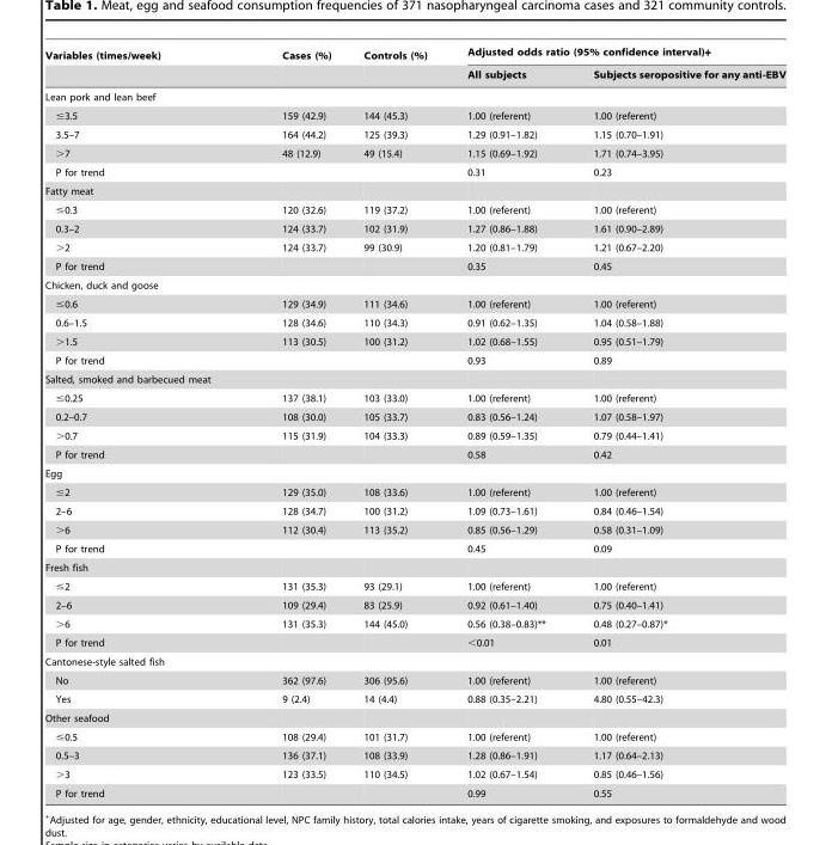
<table><thead><tr><td rowspan="2">Variables (times/week)</td><td rowspan="2">Cases (%)</td><td rowspan="2">Controls (%)</td><td colspan="2">Adjusted odds ratio (95% confidence interval)+</td></tr><tr><td>All subjects</td><td>Subjects seropositive for any anti-EBV</td></tr></thead><tbody><tr><td colspan="5">Lean pork and lean beef</td></tr><tr><td>≤3.5</td><td>159 (42.9)</td><td>144 (45.3)</td><td>1.00 (referent)</td><td>1.00 (referent)</td></tr><tr><td>3.5–7</td><td>164 (44.2)</td><td>125 (39.3)</td><td>1.29 (0.91–1.82)</td><td>1.15 (0.70–1.91)</td></tr><tr><td>&gt;7</td><td>48 (12.9)</td><td>49 (15.4)</td><td>1.15 (0.69–1.92)</td><td>1.71 (0.74–3.95)</td></tr><tr><td>P for trend</td><td></td><td></td><td>0.31</td><td>0.23</td></tr><tr><td colspan="5">Fatty meat</td></tr><tr><td>≤0.3</td><td>120 (32.6)</td><td>119 (37.2)</td><td>1.00 (referent)</td><td>1.00 (referent)</td></tr><tr><td>0.3–2</td><td>124 (33.7)</td><td>102 (31.9)</td><td>1.27 (0.86–1.88)</td><td>1.61 (0.90–2.89)</td></tr><tr><td>&gt;2</td><td>124 (33.7)</td><td>99 (30.9)</td><td>1.20 (0.81–1.79)</td><td>1.21 (0.67–2.20)</td></tr><tr><td>P for trend</td><td></td><td></td><td>0.35</td><td>0.45</td></tr><tr><td colspan="5">Chicken, duck and goose</td></tr><tr><td>≤0.6</td><td>129 (34.9)</td><td>111 (34.6)</td><td>1.00 (referent)</td><td>1.00 (referent)</td></tr><tr><td>0.6–1.5</td><td>128 (34.6)</td><td>110 (34.3)</td><td>0.91 (0.62–1.35)</td><td>1.04 (0.58–1.88)</td></tr><tr><td>&gt;1.5</td><td>113 (30.5)</td><td>100 (31.2)</td><td>1.02 (0.68–1.55)</td><td>0.95 (0.51–1.79)</td></tr><tr><td>P for trend</td><td></td><td></td><td>0.93</td><td>0.89</td></tr><tr><td colspan="5">Salted, smoked and barbecued meat</td></tr><tr><td>≤0.25</td><td>137 (38.1)</td><td>103 (33.0)</td><td>1.00 (referent)</td><td>1.00 (referent)</td></tr><tr><td>0.2–0.7</td><td>108 (30.0)</td><td>105 (33.7)</td><td>0.83 (0.56–1.24)</td><td>1.07 (0.58–1.97)</td></tr><tr><td>&gt;0.7</td><td>115 (31.9)</td><td>104 (33.3)</td><td>0.89 (0.59–1.35)</td><td>0.79 (0.44–1.41)</td></tr><tr><td>P for trend</td><td></td><td></td><td>0.58</td><td>0.42</td></tr><tr><td colspan="5">Egg</td></tr><tr><td>≤2</td><td>129 (35.0)</td><td>108 (33.6)</td><td>1.00 (referent)</td><td>1.00 (referent)</td></tr><tr><td>2–6</td><td>128 (34.7)</td><td>100 (31.2)</td><td>1.09 (0.73–1.61)</td><td>0.84 (0.46–1.54)</td></tr><tr><td>&gt;6</td><td>112 (30.4)</td><td>113 (35.2)</td><td>0.85 (0.56–1.29)</td><td>0.58 (0.31–1.09)</td></tr><tr><td>P for trend</td><td></td><td></td><td>0.45</td><td>0.09</td></tr><tr><td colspan="5">Fresh fish</td></tr><tr><td>≤2</td><td>131 (35.3)</td><td>93 (29.1)</td><td>1.00 (referent)</td><td>1.00 (referent)</td></tr><tr><td>2–6</td><td>109 (29.4)</td><td>83 (25.9)</td><td>0.92 (0.61–1.40)</td><td>0.75 (0.40–1.41)</td></tr><tr><td>&gt;6</td><td>131 (35.3)</td><td>144 (45.0)</td><td>0.56 (0.38–0.83)**</td><td>0.48 (0.27–0.87)*</td></tr><tr><td>P for trend</td><td></td><td></td><td>&lt;0.01</td><td>0.01</td></tr><tr><td colspan="5">Cantonese-style salted fish</td></tr><tr><td>No</td><td>362 (97.6)</td><td>306 (95.6)</td><td>1.00 (referent)</td><td>1.00 (referent)</td></tr><tr><td>Yes</td><td>9 (2.4)</td><td>14 (4.4)</td><td>0.88 (0.35–2.21)</td><td>4.80 (0.55–42.3)</td></tr><tr><td colspan="5">Other seafood</td></tr><tr><td>≤0.5</td><td>108 (29.4)</td><td>101 (31.7)</td><td>1.00 (referent)</td><td>1.00 (referent)</td></tr><tr><td>0.5–3</td><td>136 (37.1)</td><td>108 (33.9)</td><td>1.28 (0.86–1.91)</td><td>1.17 (0.64–2.13)</td></tr><tr><td>&gt;3</td><td>123 (33.5)</td><td>110 (34.5)</td><td>1.02 (0.67–1.54)</td><td>0.85 (0.46–1.56)</td></tr><tr><td>P for trend</td><td></td><td></td><td>0.99</td><td>0.55</td></tr></tbody></table>